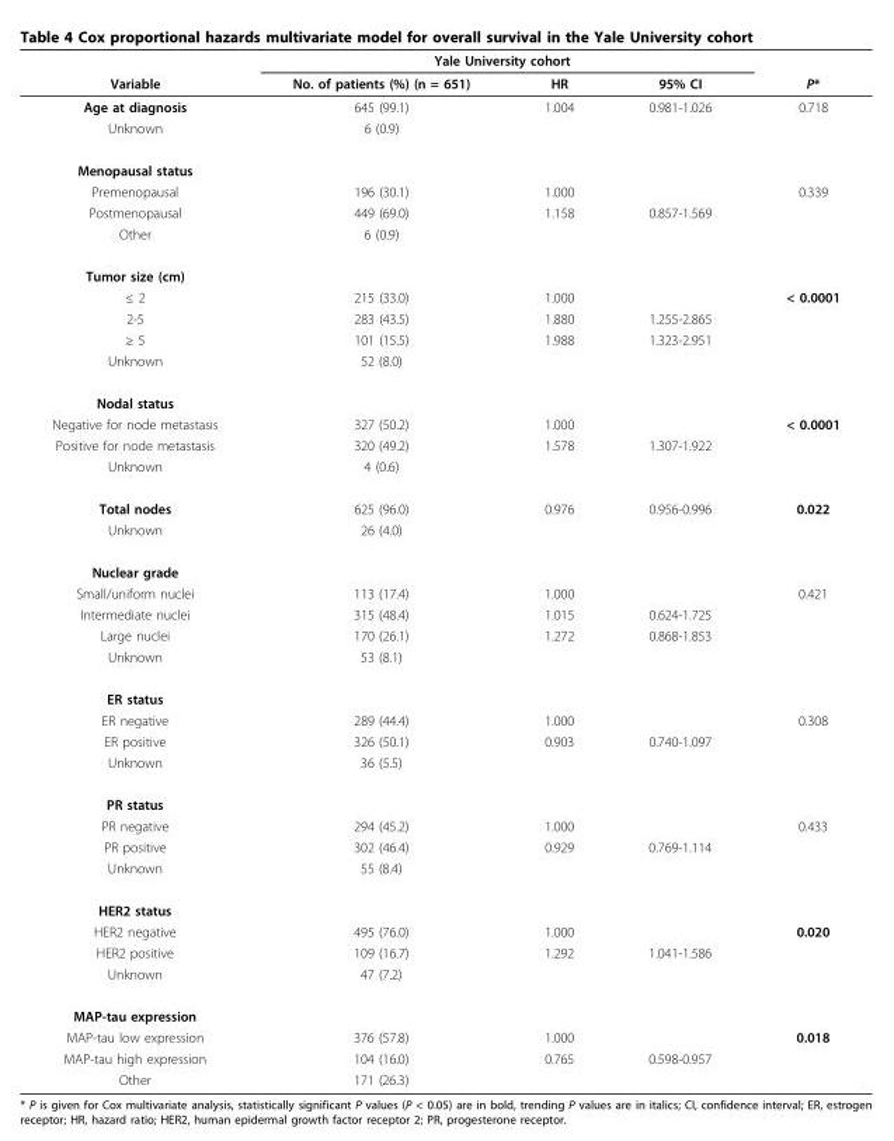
<table><thead><tr><td rowspan="2">Variable</td><td colspan="3">Yale University cohort</td><td rowspan="2">P*</td></tr><tr><td>No. of patients (%) (n = 651)</td><td>HR</td><td>95% CI</td></tr></thead><tbody><tr><td>Age at diagnosis</td><td>645 (99.1)</td><td>1.004</td><td>0.981-1.026</td><td>0.718</td></tr><tr><td>Unknown</td><td>6 (0.9)</td><td></td><td></td><td></td></tr><tr><td colspan="5">Menopausal status</td></tr><tr><td>Premenopausal</td><td>196 (30.1)</td><td>1.000</td><td></td><td>0.339</td></tr><tr><td>Postmenopausal</td><td>449 (69.0)</td><td>1.158</td><td>0.857-1.569</td><td></td></tr><tr><td>Other</td><td>6 (0.9)</td><td></td><td></td><td></td></tr><tr><td colspan="5">Tumor size (cm)</td></tr><tr><td>≤ 2</td><td>215 (33.0)</td><td>1.000</td><td></td><td>&lt; 0.0001</td></tr><tr><td>2-5</td><td>283 (43.5)</td><td>1.880</td><td>1.255-2.865</td><td></td></tr><tr><td>≥ 5</td><td>101 (15.5)</td><td>1.988</td><td>1.323-2.951</td><td></td></tr><tr><td>Unknown</td><td>52 (8.0)</td><td></td><td></td><td></td></tr><tr><td colspan="5">Nodal status</td></tr><tr><td>Negative for node metastasis</td><td>327 (50.2)</td><td>1.000</td><td></td><td>&lt; 0.0001</td></tr><tr><td>Positive for node metastasis</td><td>320 (49.2)</td><td>1.578</td><td>1.307-1.922</td><td></td></tr><tr><td>Unknown</td><td>4 (0.6)</td><td></td><td></td><td></td></tr><tr><td>Total nodes</td><td>625 (96.0)</td><td>0.976</td><td>0.956-0.996</td><td>0.022</td></tr><tr><td>Unknown</td><td>26 (4.0)</td><td></td><td></td><td></td></tr><tr><td colspan="5">Nuclear grade</td></tr><tr><td>Small/uniform nuclei</td><td>113 (17.4)</td><td>1.000</td><td></td><td>0.421</td></tr><tr><td>Intermediate nuclei</td><td>315 (48.4)</td><td>1.015</td><td>0.624-1.725</td><td></td></tr><tr><td>Large nuclei</td><td>170 (26.1)</td><td>1.272</td><td>0.868-1.853</td><td></td></tr><tr><td>Unknown</td><td>53 (8.1)</td><td></td><td></td><td></td></tr><tr><td colspan="5">ER status</td></tr><tr><td>ER negative</td><td>289 (44.4)</td><td>1.000</td><td></td><td>0.308</td></tr><tr><td>ER positive</td><td>326 (50.1)</td><td>0.903</td><td>0.740-1.097</td><td></td></tr><tr><td>Unknown</td><td>36 (5.5)</td><td></td><td></td><td></td></tr><tr><td colspan="5">PR status</td></tr><tr><td>PR negative</td><td>294 (45.2)</td><td>1.000</td><td></td><td>0.433</td></tr><tr><td>PR positive</td><td>302 (46.4)</td><td>0.929</td><td>0.769-1.114</td><td></td></tr><tr><td>Unknown</td><td>55 (8.4)</td><td></td><td></td><td></td></tr><tr><td colspan="5">HER2 status</td></tr><tr><td>HER2 negative</td><td>495 (76.0)</td><td>1.000</td><td></td><td>0.020</td></tr><tr><td>HER2 positive</td><td>109 (16.7)</td><td>1.292</td><td>1.041-1.586</td><td></td></tr><tr><td>Unknown</td><td>47 (7.2)</td><td></td><td></td><td></td></tr><tr><td colspan="5">MAP-tau expression</td></tr><tr><td>MAP-tau low expression</td><td>376 (57.8)</td><td>1.000</td><td></td><td>0.018</td></tr><tr><td>MAP-tau high expression</td><td>104 (16.0)</td><td>0.765</td><td>0.598-0.957</td><td></td></tr><tr><td>Other</td><td>171 (26.3)</td><td></td><td></td><td></td></tr></tbody></table>